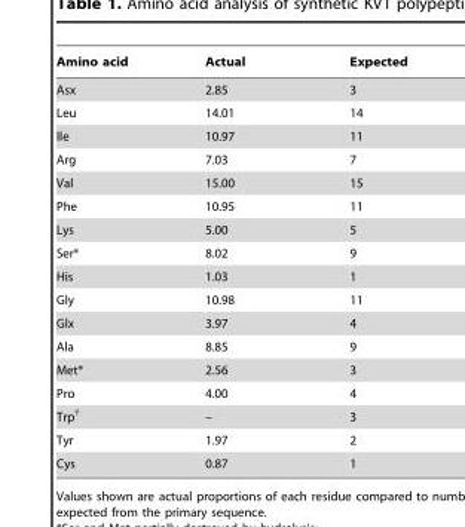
<table><thead><tr><td>Amino acid</td><td>Actual</td><td>Expected</td></tr></thead><tbody><tr><td>Asx</td><td>2.85</td><td>3</td></tr><tr><td>Leu</td><td>14.01</td><td>14</td></tr><tr><td>Ile</td><td>10.97</td><td>11</td></tr><tr><td>Arg</td><td>7.03</td><td>7</td></tr><tr><td>Val</td><td>15.00</td><td>15</td></tr><tr><td>Phe</td><td>10.95</td><td>11</td></tr><tr><td>Lys</td><td>5.00</td><td>5</td></tr><tr><td>Ser*</td><td>8.02</td><td>9</td></tr><tr><td>His</td><td>1.03</td><td>1</td></tr><tr><td>Gly</td><td>10.98</td><td>11</td></tr><tr><td>Glx</td><td>3.97</td><td>4</td></tr><tr><td>Ala</td><td>8.85</td><td>9</td></tr><tr><td>Met*</td><td>2.56</td><td>3</td></tr><tr><td>Pro</td><td>4.00</td><td>4</td></tr><tr><td>Trp†</td><td>–</td><td>3</td></tr><tr><td>Tyr</td><td>1.97</td><td>2</td></tr><tr><td>Cys</td><td>0.87</td><td>1</td></tr></tbody></table>